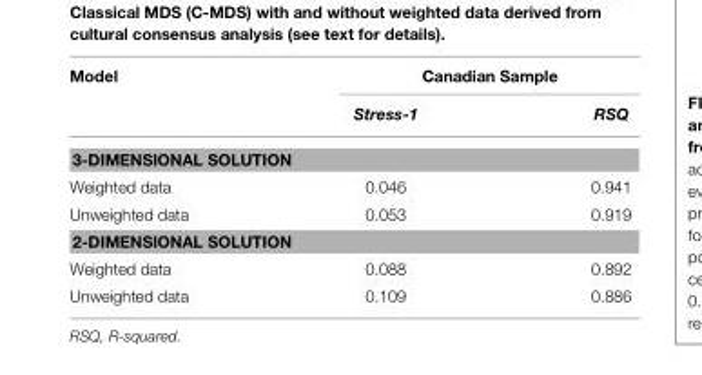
<table><thead><tr><td rowspan="2">Model</td><td colspan="2">Canadian Sample</td></tr><tr><td>Stress-1</td><td>RSQ</td></tr></thead><tbody><tr><td colspan="3">3-DIMENSIONAL SOLUTION</td></tr><tr><td>Weighted data</td><td>0.046</td><td>0.941</td></tr><tr><td>Unweighted data</td><td>0.053</td><td>0.919</td></tr><tr><td colspan="3">2-DIMENSIONAL SOLUTION</td></tr><tr><td>Weighted data</td><td>0.088</td><td>0.892</td></tr><tr><td>Unweighted data</td><td>0.109</td><td>0.886</td></tr></tbody></table>